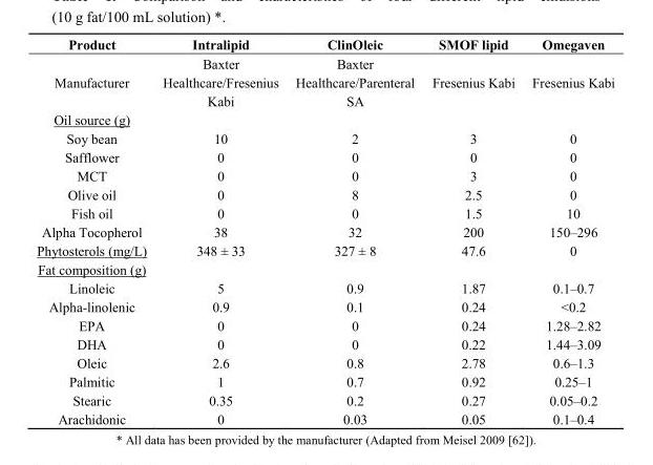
<table><thead><tr><td>Product</td><td>Intralipid</td><td>ClinOleic</td><td>SMOF lipid</td><td>Omegaven</td></tr></thead><tbody><tr><td>Manufacturer</td><td>Baxter Healthcare/Fresenius Kabi</td><td>Baxter Healthcare/Parenteral SA</td><td>Fresenius Kabi</td><td>Fresenius Kabi</td></tr><tr><td colspan="5">Oil source (g)</td></tr><tr><td>Soy bean</td><td>10</td><td>2</td><td>3</td><td>0</td></tr><tr><td>Safflower</td><td>0</td><td>0</td><td>0</td><td>0</td></tr><tr><td>MCT</td><td>0</td><td>0</td><td>3</td><td>0</td></tr><tr><td>Olive oil</td><td>0</td><td>8</td><td>2.5</td><td>0</td></tr><tr><td>Fish oil</td><td>0</td><td>0</td><td>1.5</td><td>10</td></tr><tr><td>Alpha Tocopherol</td><td>38</td><td>32</td><td>200</td><td>150–296</td></tr><tr><td>Phytosterols (mg/L)</td><td>348 ± 33</td><td>327 ± 8</td><td>47.6</td><td>0</td></tr><tr><td colspan="5">Fat composition (g)</td></tr><tr><td>Linoleic</td><td>5</td><td>0.9</td><td>1.87</td><td>0.1–0.7</td></tr><tr><td>Alpha-linolenic</td><td>0.9</td><td>0.1</td><td>0.24</td><td>&lt;0.2</td></tr><tr><td>EPA</td><td>0</td><td>0</td><td>0.24</td><td>1.28–2.82</td></tr><tr><td>DHA</td><td>0</td><td>0</td><td>0.22</td><td>1.44–3.09</td></tr><tr><td>Oleic</td><td>2.6</td><td>0.8</td><td>2.78</td><td>0.6–1.3</td></tr><tr><td>Palmitic</td><td>1</td><td>0.7</td><td>0.92</td><td>0.25–1</td></tr><tr><td>Stearic</td><td>0.35</td><td>0.2</td><td>0.27</td><td>0.05–0.2</td></tr><tr><td>Arachidonic</td><td>0</td><td>0.03</td><td>0.05</td><td>0.1–0.4</td></tr></tbody></table>